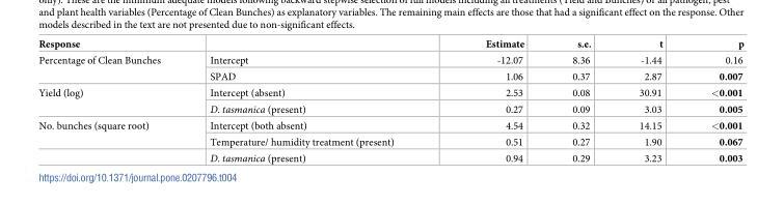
<table><thead><tr><td>Response</td><td></td><td>Estimate</td><td>s.e.</td><td>t</td><td>p</td></tr></thead><tbody><tr><td rowspan="2">Percentage of Clean Bunches</td><td>Intercept</td><td>-12.07</td><td>8.36</td><td>-1.44</td><td>0.16</td></tr><tr><td>SPAD</td><td>1.06</td><td>0.37</td><td>2.87</td><td>0.007</td></tr><tr><td rowspan="2">Yield (log)</td><td>Intercept (absent)</td><td>2.53</td><td>0.08</td><td>30.91</td><td>&lt;0.001</td></tr><tr><td>D. tasmanica (present)</td><td>0.27</td><td>0.09</td><td>3.03</td><td>0.005</td></tr><tr><td rowspan="3">No. bunches (square root)</td><td>Intercept (both absent)</td><td>4.54</td><td>0.32</td><td>14.15</td><td>&lt;0.001</td></tr><tr><td>Temperature/ humidity treatment (present)</td><td>0.51</td><td>0.27</td><td>1.90</td><td>0.067</td></tr><tr><td>D. tasmanica (present)</td><td>0.94</td><td>0.29</td><td>3.23</td><td>0.003</td></tr></tbody></table>